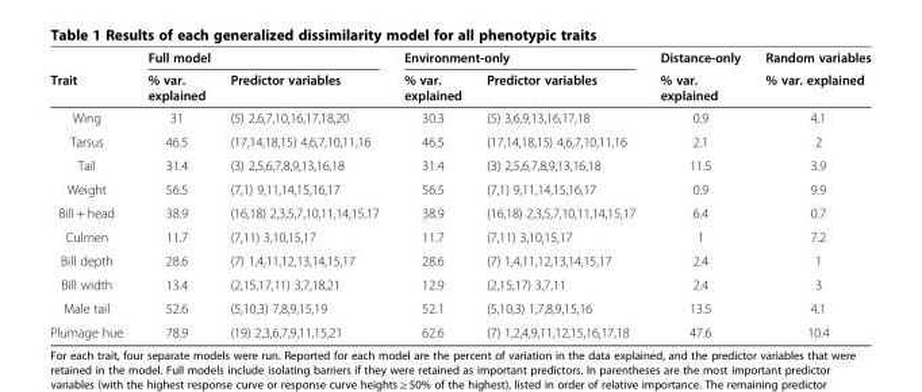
<table><thead><tr><td rowspan="2">Trait</td><td colspan="2">Full model</td><td colspan="2">Environment-only</td><td rowspan="2">Distance-only % var. explained</td><td rowspan="2">Random variables % var. explained</td></tr><tr><td>% var. explained</td><td>Predictor variables</td><td>% var. explained</td><td>Predictor variables</td></tr></thead><tbody><tr><td>Wing</td><td>31</td><td>(5) 2,6,7,10,16,17,18,20</td><td>30.3</td><td>(5) 3,6,9,13,16,17,18</td><td>0.9</td><td>4.1</td></tr><tr><td>Tarsus</td><td>46.5</td><td>(17,14,18,15) 4,6,7,10,11,16</td><td>46.5</td><td>(17,14,18,15) 4,6,7,10,11,16</td><td>2.1</td><td>2</td></tr><tr><td>Tail</td><td>31.4</td><td>(3) 2,5,6,7,8,9,13,16,18</td><td>31.4</td><td>(3) 2,5,6,7,8,9,13,16,18</td><td>11.5</td><td>3.9</td></tr><tr><td>Weight</td><td>56.5</td><td>(7,1) 9,11,14,15,16,17</td><td>56.5</td><td>(7,1) 9,11,14,15,16,17</td><td>0.9</td><td>9.9</td></tr><tr><td>Bill + head</td><td>38.9</td><td>(16,18) 2,3,5,7,10,11,14,15,17</td><td>38.9</td><td>(16,18) 2,3,5,7,10,11,14,15,17</td><td>6.4</td><td>0.7</td></tr><tr><td>Culmen</td><td>11.7</td><td>(7,11) 3,10,15,17</td><td>11.7</td><td>(7,11) 3,10,15,17</td><td>1</td><td>7.2</td></tr><tr><td>Bill depth</td><td>28.6</td><td>(7) 1,4,11,12,13,14,15,17</td><td>28.6</td><td>(7) 1,4,11,12,13,14,15,17</td><td>2.4</td><td>1</td></tr><tr><td>Bill width</td><td>13.4</td><td>(2,15,17,11) 3,7,18,21</td><td>12.9</td><td>(2,15,17) 3,7,11</td><td>2.4</td><td>3</td></tr><tr><td>Male tail</td><td>52.6</td><td>(5,10,3) 7,8,9,15,19</td><td>52.1</td><td>(5,10,3) 1,7,8,9,15,16</td><td>13.5</td><td>4.1</td></tr><tr><td>Plumage hue</td><td>78.9</td><td>(19) 2,3,6,7,9,11,15,21</td><td>62.6</td><td>(7) 1,2,4,9,11,12,15,16,17,18</td><td>47.6</td><td>10.4</td></tr></tbody></table>